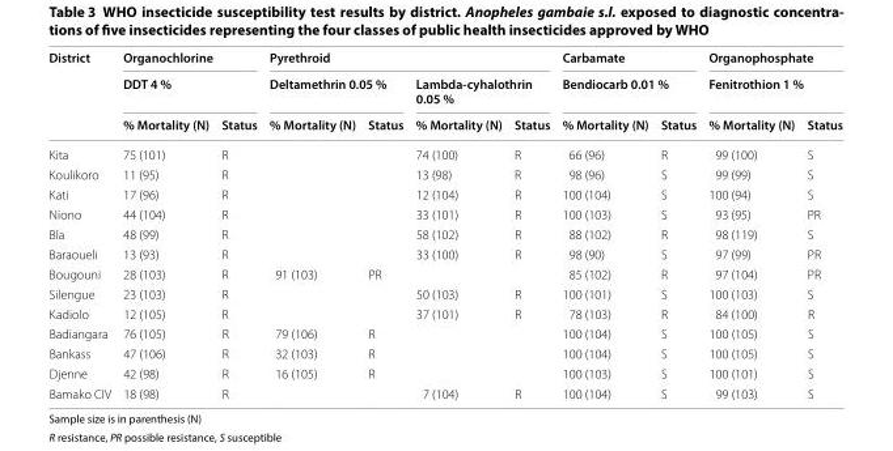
<table><thead><tr><td rowspan="3">District</td><td rowspan="2" colspan="2">Organochlorine DDT 4 %</td><td colspan="4">Pyrethroid</td><td rowspan="2" colspan="2">Carbamate Bendiocarb 0.01 %</td><td rowspan="2" colspan="2">Organophosphate Fenitrothion 1 %</td></tr><tr><td colspan="2">Deltamethrin 0.05 %</td><td colspan="2">Lambda-cyhalothrin 0.05 %</td></tr><tr><td>% Mortality (N)</td><td>Status</td><td>% Mortality (N)</td><td>Status</td><td>% Mortality (N)</td><td>Status</td><td>% Mortality (N)</td><td>Status</td><td>% Mortality (N)</td><td>Status</td></tr></thead><tbody><tr><td>Kita</td><td>75 (101)</td><td>R</td><td></td><td></td><td>74 (100)</td><td>R</td><td>66 (96)</td><td>R</td><td>99 (100)</td><td>S</td></tr><tr><td>Koulikoro</td><td>11 (95)</td><td>R</td><td></td><td></td><td>13 (98)</td><td>R</td><td>98 (96)</td><td>S</td><td>99 (99)</td><td>S</td></tr><tr><td>Kati</td><td>17 (96)</td><td>R</td><td></td><td></td><td>12 (104)</td><td>R</td><td>100 (104)</td><td>S</td><td>100 (94)</td><td>S</td></tr><tr><td>Niono</td><td>44 (104)</td><td>R</td><td></td><td></td><td>33 (101)</td><td>R</td><td>100 (103)</td><td>S</td><td>93 (95)</td><td>PR</td></tr><tr><td>Bla</td><td>48 (99)</td><td>R</td><td></td><td></td><td>58 (102)</td><td>R</td><td>88 (102)</td><td>R</td><td>98 (119)</td><td>S</td></tr><tr><td>Baraoueli</td><td>13 (93)</td><td>R</td><td></td><td></td><td>33 (100)</td><td>R</td><td>98 (90)</td><td>S</td><td>97 (99)</td><td>PR</td></tr><tr><td>Bougouni</td><td>28 (103)</td><td>R</td><td>91 (103)</td><td>PR</td><td></td><td></td><td>85 (102)</td><td>R</td><td>97 (104)</td><td>PR</td></tr><tr><td>Silengue</td><td>23 (103)</td><td>R</td><td></td><td></td><td>50 (103)</td><td>R</td><td>100 (101)</td><td>S</td><td>100 (103)</td><td>S</td></tr><tr><td>Kadiolo</td><td>12 (105)</td><td>R</td><td></td><td></td><td>37 (101)</td><td>R</td><td>78 (103)</td><td>R</td><td>84 (100)</td><td>R</td></tr><tr><td>Badiangara</td><td>76 (105)</td><td>R</td><td>79 (106)</td><td>R</td><td></td><td></td><td>100 (104)</td><td>S</td><td>100 (105)</td><td>S</td></tr><tr><td>Bankass</td><td>47 (106)</td><td>R</td><td>32 (103)</td><td>R</td><td></td><td></td><td>100 (104)</td><td>S</td><td>100 (105)</td><td>S</td></tr><tr><td>Djenne</td><td>42 (98)</td><td>R</td><td>16 (105)</td><td>R</td><td></td><td></td><td>100 (103)</td><td>S</td><td>100 (101)</td><td>S</td></tr><tr><td>Bamako CIV</td><td>18 (98)</td><td>R</td><td></td><td></td><td>7 (104)</td><td>R</td><td>100 (104)</td><td>S</td><td>99 (103)</td><td>S</td></tr></tbody></table>